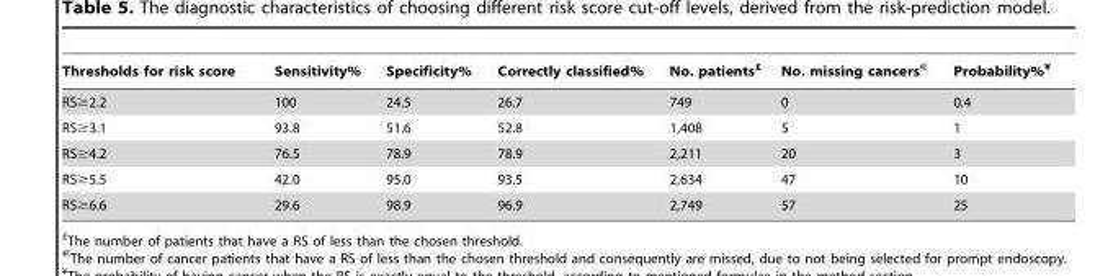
<table><thead><tr><td>Thresholds for risk score</td><td>Sensitivity%</td><td>Specificity%</td><td>Correctly classified%</td><td>No. patients£</td><td>No. missing cancers€</td><td>Probability%¥</td></tr></thead><tbody><tr><td>RS≥2.2</td><td>100</td><td>24.5</td><td>26.7</td><td>749</td><td>0</td><td>0.4</td></tr><tr><td>RS≥3.1</td><td>93.8</td><td>51.6</td><td>52.8</td><td>1,408</td><td>5</td><td>1</td></tr><tr><td>RS≥4.2</td><td>76.5</td><td>78.9</td><td>78.9</td><td>2,211</td><td>20</td><td>3</td></tr><tr><td>RS≥5.5</td><td>42.0</td><td>95.0</td><td>93.5</td><td>2,634</td><td>47</td><td>10</td></tr><tr><td>RS≥6.6</td><td>29.6</td><td>98.9</td><td>96.9</td><td>2,749</td><td>57</td><td>25</td></tr></tbody></table>